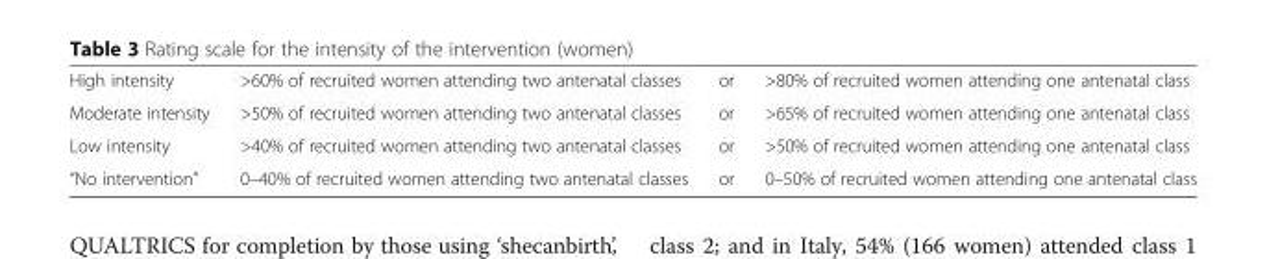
<table><tbody><tr><td>High intensity</td><td>&gt;60% of recruited women attending two antenatal classes</td><td>or</td><td>&gt;80% of recruited women attending one antenatal class</td></tr><tr><td>Moderate intensity</td><td>&gt;50% of recruited women attending two antenatal classes</td><td>or</td><td>&gt;65% of recruited women attending one antenatal class</td></tr><tr><td>Low intensity</td><td>&gt;40% of recruited women attending two antenatal classes</td><td>or</td><td>&gt;50% of recruited women attending one antenatal class</td></tr><tr><td>“No intervention”</td><td>0–40% of recruited women attending two antenatal classes</td><td>or</td><td>0–50% of recruited women attending one antenatal class</td></tr></tbody></table>